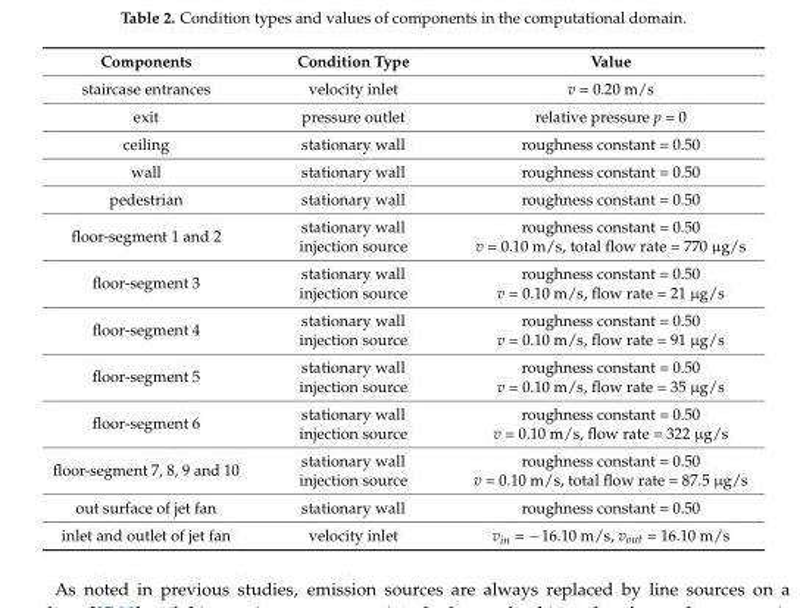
<table><thead><tr><td>Components</td><td>Condition Type</td><td>Value</td></tr></thead><tbody><tr><td>staircase entrances</td><td>velocity inlet</td><td>v = 0.20 m/s</td></tr><tr><td>exit</td><td>pressure outlet</td><td>relative pressure p = 0</td></tr><tr><td>ceiling</td><td>stationary wall</td><td>roughness constant = 0.50</td></tr><tr><td>wall</td><td>stationary wall</td><td>roughness constant = 0.50</td></tr><tr><td>pedestrian</td><td>stationary wall</td><td>roughness constant = 0.50</td></tr><tr><td rowspan="2">floor-segment 1 and 2</td><td>stationary wall</td><td>roughness constant = 0.50</td></tr><tr><td>injection source</td><td>v = 0.10 m/s, total flow rate = 770 µg/s</td></tr><tr><td rowspan="2">floor-segment 3</td><td>stationary wall</td><td>roughness constant = 0.50</td></tr><tr><td>injection source</td><td>v = 0.10 m/s, flow rate = 21 µg/s</td></tr><tr><td rowspan="2">floor-segment 4</td><td>stationary wall</td><td>roughness constant = 0.50</td></tr><tr><td>injection source</td><td>v = 0.10 m/s, flow rate = 91 µg/s</td></tr><tr><td rowspan="2">floor-segment 5</td><td>stationary wall</td><td>roughness constant = 0.50</td></tr><tr><td>injection source</td><td>v = 0.10 m/s, flow rate = 35 µg/s</td></tr><tr><td rowspan="2">floor-segment 6</td><td>stationary wall</td><td>roughness constant = 0.50</td></tr><tr><td>injection source</td><td>v = 0.10 m/s, flow rate = 322 µg/s</td></tr><tr><td rowspan="2">floor-segment 7, 8, 9 and 10</td><td>stationary wall</td><td>roughness constant = 0.50</td></tr><tr><td>injection source</td><td>v = 0.10 m/s, total flow rate = 87.5 µg/s</td></tr><tr><td>out surface of jet fan</td><td>stationary wall</td><td>roughness constant = 0.50</td></tr><tr><td>inlet and outlet of jet fan</td><td>velocity inlet</td><td>v<sub>in</sub> = −16.10 m/s, v<sub>out</sub> = 16.10 m/s</td></tr></tbody></table>